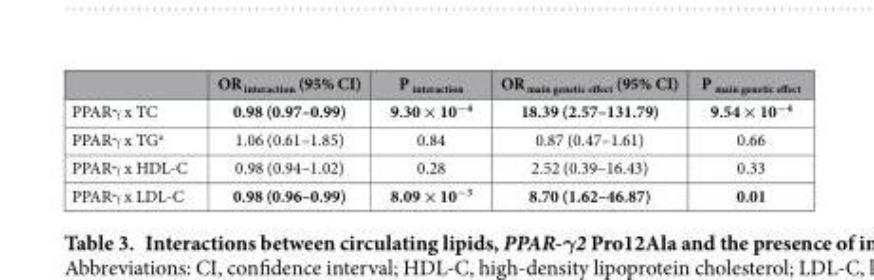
<table><thead><tr><td></td><td>OR <sub>interaction</sub> (95% CI)</td><td>P <sub>interaction</sub></td><td>OR <sub>main genetic effect</sub> (95% CI)</td><td>P <sub>main genetic effect</sub></td></tr></thead><tbody><tr><td>PPARγ x TC</td><td>0.98 (0.97–0.99)</td><td>9.30 × 10<sup>−4</sup></td><td>18.39 (2.57–131.79)</td><td>9.54 × 10<sup>−4</sup></td></tr><tr><td>PPARγ x TG<sup>a</sup></td><td>1.06 (0.61–1.85)</td><td>0.84</td><td>0.87 (0.47–1.61)</td><td>0.66</td></tr><tr><td>PPARγ x HDL-C</td><td>0.98 (0.94–1.02)</td><td>0.28</td><td>2.52 (0.39–16.43)</td><td>0.33</td></tr><tr><td>PPARγ x LDL-C</td><td>0.98 (0.96–0.99)</td><td>8.09 × 10<sup>−3</sup></td><td>8.70 (1.62–46.87)</td><td>0.01</td></tr></tbody></table>